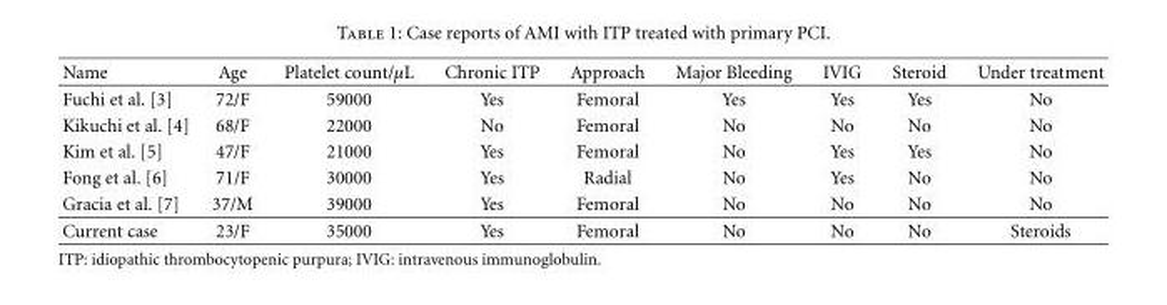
<table><thead><tr><td>Name</td><td>Age</td><td>Platelet count/µL</td><td>Chronic ITP</td><td>Approach</td><td>Major Bleeding</td><td>IVIG</td><td>Steroid</td><td>Under treatment</td></tr></thead><tbody><tr><td>Fuchi et al. [3]</td><td>72/F</td><td>59000</td><td>Yes</td><td>Femoral</td><td>Yes</td><td>Yes</td><td>Yes</td><td>No</td></tr><tr><td>Kikuchi et al. [4]</td><td>68/F</td><td>22000</td><td>No</td><td>Femoral</td><td>No</td><td>No</td><td>No</td><td>No</td></tr><tr><td>Kim et al. [5]</td><td>47/F</td><td>21000</td><td>Yes</td><td>Femoral</td><td>No</td><td>Yes</td><td>Yes</td><td>No</td></tr><tr><td>Fong et al. [6]</td><td>71/F</td><td>30000</td><td>Yes</td><td>Radial</td><td>No</td><td>Yes</td><td>No</td><td>No</td></tr><tr><td>Gracia et al. [7]</td><td>37/M</td><td>39000</td><td>Yes</td><td>Femoral</td><td>No</td><td>No</td><td>No</td><td>No</td></tr><tr><td>Current case</td><td>23/F</td><td>35000</td><td>Yes</td><td>Femoral</td><td>No</td><td>No</td><td>No</td><td>Steroids</td></tr></tbody></table>